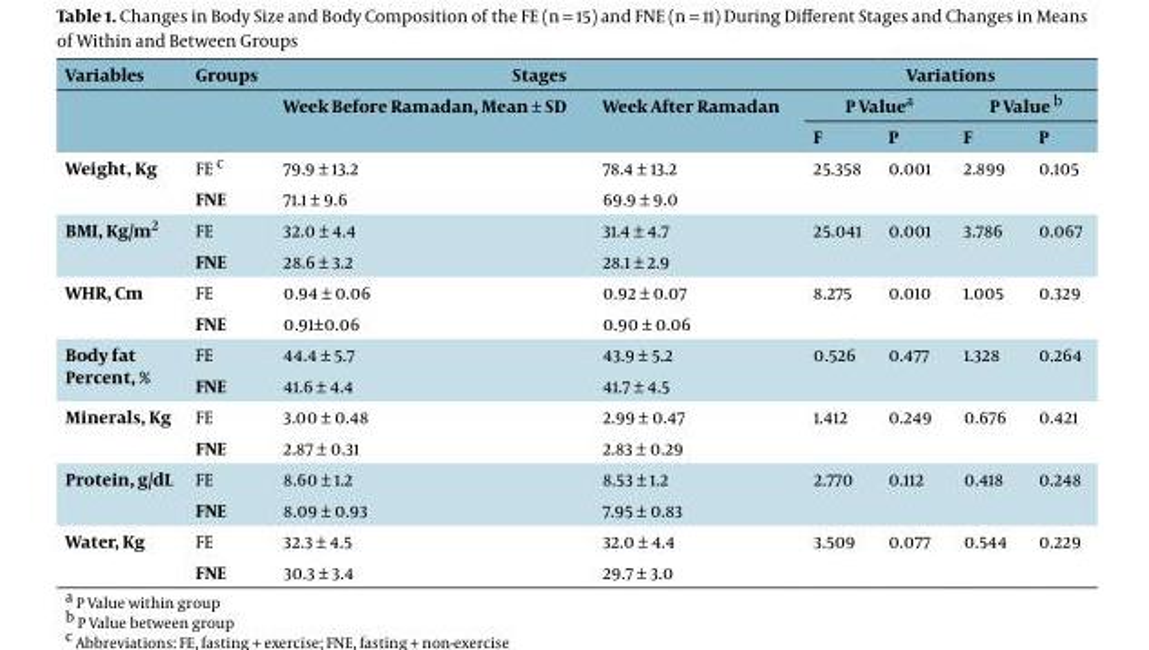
<table><thead><tr><td rowspan="3">Variables</td><td rowspan="3">Groups</td><td colspan="2">Stages</td><td colspan="4">Variations</td></tr><tr><td rowspan="2">Week Before Ramadan, Mean ± SD</td><td rowspan="2">Week After Ramadan</td><td colspan="2">P Value<sup>a</sup></td><td colspan="2">P Value <sup>b</sup></td></tr><tr><td>F</td><td>P</td><td>F</td><td>P</td></tr></thead><tbody><tr><td rowspan="2">Weight, Kg</td><td>FE <sup>c</sup></td><td>79.9 ± 13.2</td><td>78.4 ± 13.2</td><td rowspan="2">25.358</td><td rowspan="2">0.001</td><td rowspan="2">2.899</td><td rowspan="2">0.105</td></tr><tr><td>FNE</td><td>71.1 ± 9.6</td><td>69.9 ± 9.0</td></tr><tr><td rowspan="2">BMI, Kg/m<sup>2</sup></td><td>FE</td><td>32.0 ± 4.4</td><td>31.4 ± 4.7</td><td rowspan="2">25.041</td><td rowspan="2">0.001</td><td rowspan="2">3.786</td><td rowspan="2">0.067</td></tr><tr><td>FNE</td><td>28.6 ± 3.2</td><td>28.1 ± 2.9</td></tr><tr><td rowspan="2">WHR, Cm</td><td>FE</td><td>0.94 ± 0.06</td><td>0.92 ± 0.07</td><td rowspan="2">8.275</td><td rowspan="2">0.010</td><td rowspan="2">1.005</td><td rowspan="2">0.329</td></tr><tr><td>FNE</td><td>0.91±0.06</td><td>0.90 ± 0.06</td></tr><tr><td rowspan="2">Body fat Percent, %</td><td>FE</td><td>44.4 ± 5.7</td><td>43.9 ± 5.2</td><td rowspan="2">0.526</td><td rowspan="2">0.477</td><td rowspan="2">1.328</td><td rowspan="2">0.264</td></tr><tr><td>FNE</td><td>41.6 ± 4.4</td><td>41.7 ± 4.5</td></tr><tr><td rowspan="2">Minerals, Kg</td><td>FE</td><td>3.00 ± 0.48</td><td>2.99 ± 0.47</td><td rowspan="2">1.412</td><td rowspan="2">0.249</td><td rowspan="2">0.676</td><td rowspan="2">0.421</td></tr><tr><td>FNE</td><td>2.87 ± 0.31</td><td>2.83 ± 0.29</td></tr><tr><td rowspan="2">Protein, g/dL</td><td>FE</td><td>8.60 ± 1.2</td><td>8.53 ± 1.2</td><td rowspan="2">2.770</td><td rowspan="2">0.112</td><td rowspan="2">0.418</td><td rowspan="2">0.248</td></tr><tr><td>FNE</td><td>8.09 ± 0.93</td><td>7.95 ± 0.83</td></tr><tr><td rowspan="2">Water, Kg</td><td>FE</td><td>32.3 ± 4.5</td><td>32.0 ± 4.4</td><td rowspan="2">3.509</td><td rowspan="2">0.077</td><td rowspan="2">0.544</td><td rowspan="2">0.229</td></tr><tr><td>FNE</td><td>30.3 ± 3.4</td><td>29.7 ± 3.0</td></tr></tbody></table>